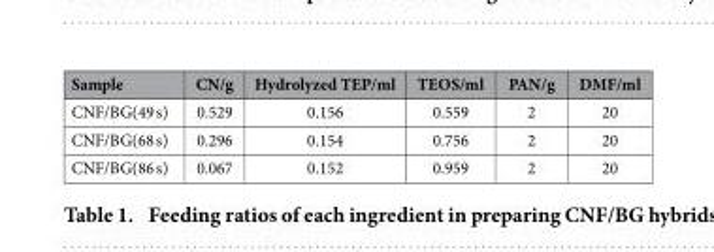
<table><thead><tr><td>Sample</td><td>CN/g</td><td>Hydrolyzed TEP/ml</td><td>TEOS/ml</td><td>PAN/g</td><td>DMF/ml</td></tr></thead><tbody><tr><td>CNF/BG(49 s)</td><td>0.529</td><td>0.156</td><td>0.559</td><td>2</td><td>20</td></tr><tr><td>CNF/BG(68 s)</td><td>0.296</td><td>0.154</td><td>0.756</td><td>2</td><td>20</td></tr><tr><td>CNF/BG(86 s)</td><td>0.067</td><td>0.152</td><td>0.959</td><td>2</td><td>20</td></tr></tbody></table>